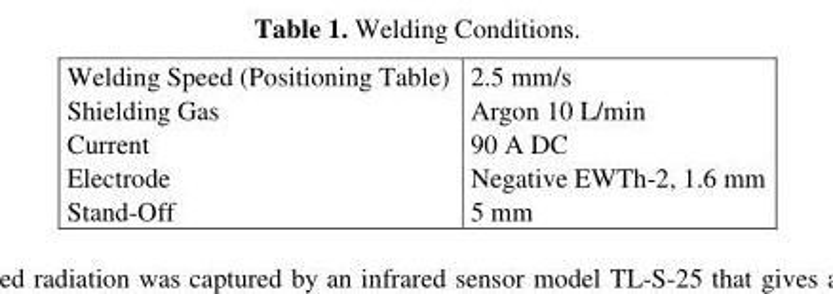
<table><tbody><tr><td>Welding Speed (Positioning Table)</td><td>2.5 mm/s</td></tr><tr><td>Shielding Gas</td><td>Argon 10 L/min</td></tr><tr><td>Current</td><td>90 A DC</td></tr><tr><td>Electrode</td><td>Negative EWTh-2, 1.6 mm</td></tr><tr><td>Stand-Off</td><td>5 mm</td></tr></tbody></table>